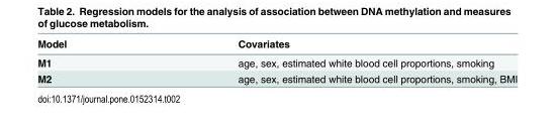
<table><thead><tr><td>Model</td><td>Covariates</td></tr></thead><tbody><tr><td>M1</td><td>age, sex, estimated white blood cell proportions, smoking</td></tr><tr><td>M2</td><td>age, sex, estimated white blood cell proportions, smoking, BMI</td></tr></tbody></table>